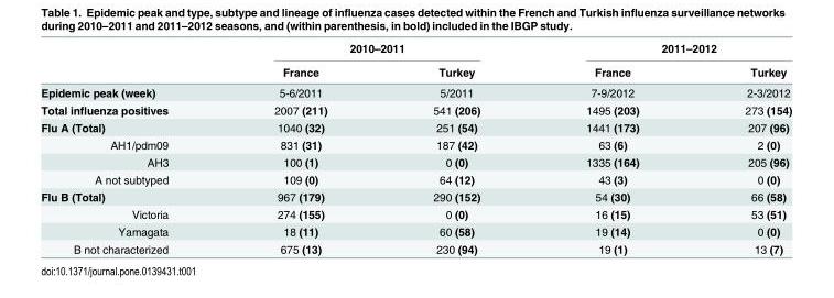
<table><thead><tr><td rowspan="2"></td><td colspan="2">2010–2011</td><td colspan="2">2011–2012</td></tr><tr><td>France</td><td>Turkey</td><td>France</td><td>Turkey</td></tr></thead><tbody><tr><td>Epidemic peak (week)</td><td>5-6/2011</td><td>5/2011</td><td>7-9/2012</td><td>2-3/2012</td></tr><tr><td>Total influenza positives</td><td>2007 (211)</td><td>541 (206)</td><td>1495 (203)</td><td>273 (154)</td></tr><tr><td>Flu A (Total)</td><td>1040 (32)</td><td>251 (54)</td><td>1441 (173)</td><td>207 (96)</td></tr><tr><td>AH1/pdm09</td><td>831 (31)</td><td>187 (42)</td><td>63 (6)</td><td>2 (0)</td></tr><tr><td>AH3</td><td>100 (1)</td><td>0 (0)</td><td>1335 (164)</td><td>205 (96)</td></tr><tr><td>A not subtyped</td><td>109 (0)</td><td>64 (12)</td><td>43 (3)</td><td>0 (0)</td></tr><tr><td>Flu B (Total)</td><td>967 (179)</td><td>290 (152)</td><td>54 (30)</td><td>66 (58)</td></tr><tr><td>Victoria</td><td>274 (155)</td><td>0 (0)</td><td>16 (15)</td><td>53 (51)</td></tr><tr><td>Yamagata</td><td>18 (11)</td><td>60 (58)</td><td>19 (14)</td><td>0 (0)</td></tr><tr><td>B not characterized</td><td>675 (13)</td><td>230 (94)</td><td>19 (1)</td><td>13 (7)</td></tr></tbody></table>